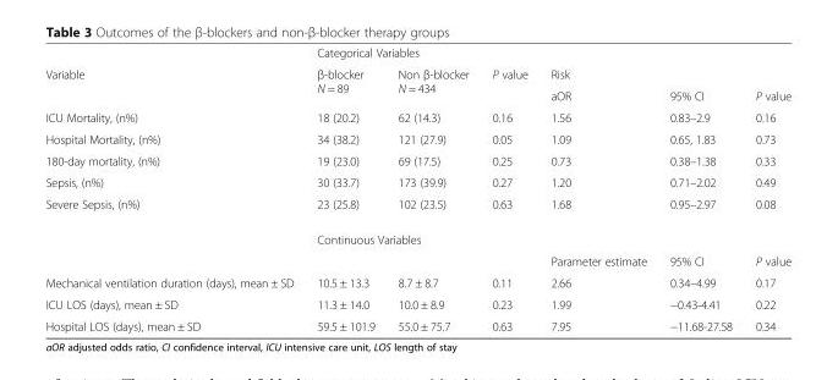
<table><thead><tr><td rowspan="3">Variable</td><td colspan="6">Categorical Variables</td></tr><tr><td rowspan="2">β-blocker N = 89</td><td rowspan="2">Non β-blocker N = 434</td><td rowspan="2">P value</td><td colspan="3">Risk</td></tr><tr><td>aOR</td><td>95% CI</td><td>P value</td></tr></thead><tbody><tr><td>ICU Mortality, (n%)</td><td>18 (20.2)</td><td>62 (14.3)</td><td>0.16</td><td>1.56</td><td>0.83–2.9</td><td>0.16</td></tr><tr><td>Hospital Mortality, (n%)</td><td>34 (38.2)</td><td>121 (27.9)</td><td>0.05</td><td>1.09</td><td>0.65, 1.83</td><td>0.73</td></tr><tr><td>180-day mortality, (n%)</td><td>19 (23.0)</td><td>69 (17.5)</td><td>0.25</td><td>0.73</td><td>0.38–1.38</td><td>0.33</td></tr><tr><td>Sepsis, (n%)</td><td>30 (33.7)</td><td>173 (39.9)</td><td>0.27</td><td>1.20</td><td>0.71–2.02</td><td>0.49</td></tr><tr><td rowspan="3">Severe Sepsis, (n%)</td><td>23 (25.8)</td><td>102 (23.5)</td><td>0.63</td><td>1.68</td><td>0.95–2.97</td><td>0.08</td></tr><tr><td colspan="6">Continuous Variables</td></tr><tr><td></td><td></td><td></td><td>Parameter estimate</td><td>95% CI</td><td>P value</td></tr><tr><td>Mechanical ventilation duration (days), mean ± SD</td><td>10.5 ± 13.3</td><td>8.7 ± 8.7</td><td>0.11</td><td>2.66</td><td>0.34–4.99</td><td>0.17</td></tr><tr><td>ICU LOS (days), mean ± SD</td><td>11.3 ± 14.0</td><td>10.0 ± 8.9</td><td>0.23</td><td>1.99</td><td>−0.43-4.41</td><td>0.22</td></tr><tr><td>Hospital LOS (days), mean ± SD</td><td>59.5 ± 101.9</td><td>55.0 ± 75.7</td><td>0.63</td><td>7.95</td><td>−11.68-27.58</td><td>0.34</td></tr></tbody></table>